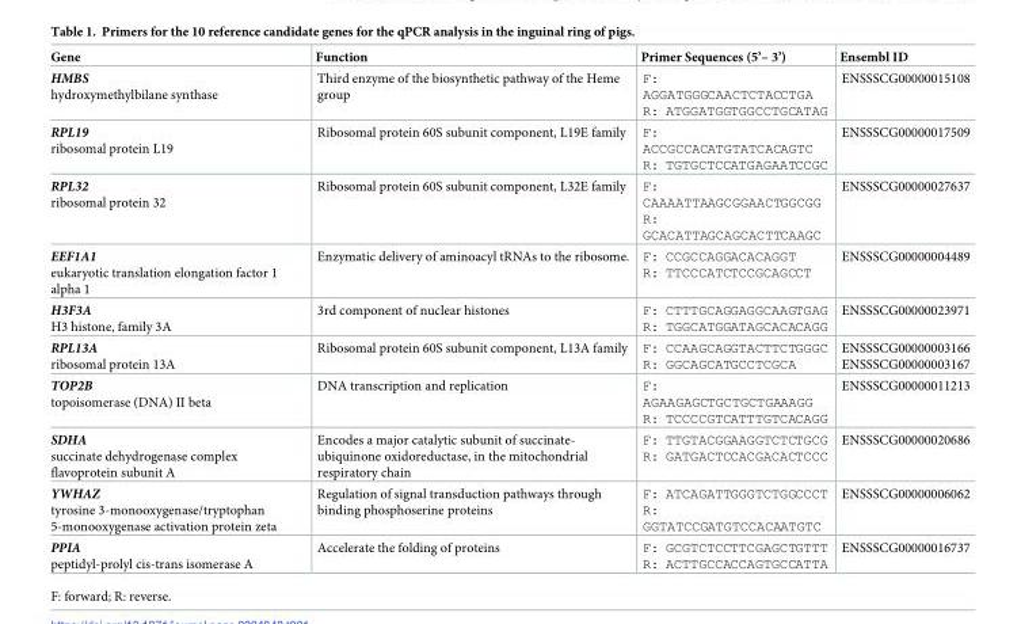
<table><thead><tr><td>Gene</td><td>Function</td><td>Primer Sequences (5’– 3’)</td><td>Ensembl ID</td></tr></thead><tbody><tr><td>HMBS hydroxymethylbilane synthase</td><td>Third enzyme of the biosynthetic pathway of the Heme group</td><td>F: AGGATGGGCAACTCTACCTGA R: ATGGATGGTGGCCTGCATAG</td><td>ENSSSCG00000015108</td></tr><tr><td>RPL19 ribosomal protein L19</td><td>Ribosomal protein 60S subunit component, L19E family</td><td>F: ACCGCCACATGTATCACAGTC R: TGTGCTCCATGAGAATCCGC</td><td>ENSSSCG00000017509</td></tr><tr><td>RPL32 ribosomal protein 32</td><td>Ribosomal protein 60S subunit component, L32E family</td><td>F: CAAAATTAAGCGGAACTGGCGG R: GCACATTAGCAGCACTTCAAGC</td><td>ENSSSCG00000027637</td></tr><tr><td>EEF1A1 eukaryotic translation elongation factor 1 alpha 1</td><td>Enzymatic delivery of aminoacyl tRNAs to the ribosome.</td><td>F: CCGCCAGGACACAGGT R: TTCCCATCTCCGCAGCCT</td><td>ENSSSCG00000004489</td></tr><tr><td>H3F3A H3 histone, family 3A</td><td>3rd component of nuclear histones</td><td>F: CTTTGCAGGAGGCAAGTGAG R: TGGCATGGATAGCACACAGG</td><td>ENSSSCG00000023971</td></tr><tr><td>RPL13A ribosomal protein 13A</td><td>Ribosomal protein 60S subunit component, L13A family</td><td>F: CCAAGCAGGTACTTCTGGGC R: GGCAGCATGCCTCGCA</td><td>ENSSSCG00000003166 ENSSSCG00000003167</td></tr><tr><td>TOP2B topoisomerase (DNA) II beta</td><td>DNA transcription and replication</td><td>F: AGAAGAGCTGCTGCTGAAAGG R: TCCCCGTCATTTGTCACAGG</td><td>ENSSSCG00000011213</td></tr><tr><td>SDHA succinate dehydrogenase complex flavoprotein subunit A</td><td>Encodes a major catalytic subunit of succinate- ubiquinone oxidoreductase, in the mitochondrial respiratory chain</td><td>F: TTGTACGGAAGGTCTCTGCG R: GATGACTCCACGACACTCCC</td><td>ENSSSCG00000020686</td></tr><tr><td>YWHAZ tyrosine 3-monooxygenase/tryptophan 5-monooxygenase activation protein zeta</td><td>Regulation of signal transduction pathways through binding phosphoserine proteins</td><td>F: ATCAGATTGGGTCTGGCCCT R: GGTATCCGATGTCCACAATGTC</td><td>ENSSSCG00000006062</td></tr><tr><td>PPIA peptidyl-prolyl cis-trans isomerase A</td><td>Accelerate the folding of proteins</td><td>F: GCGTCTCCTTCGAGCTGTTT R: ACTTGCCACCAGTGCCATTA</td><td>ENSSSCG00000016737</td></tr></tbody></table>